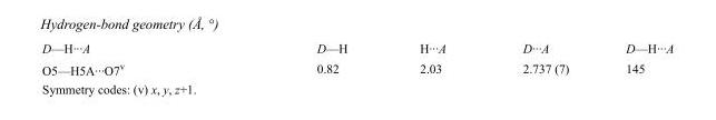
<table><tbody><tr><td>D—H···A</td><td>D—H</td><td>H···A</td><td>D···A</td><td>D—H···A</td></tr><tr><td>O5—H5A···O7<sup>v</sup></td><td>0.82</td><td>2.03</td><td>2.737 (7)</td><td>145</td></tr></tbody></table>